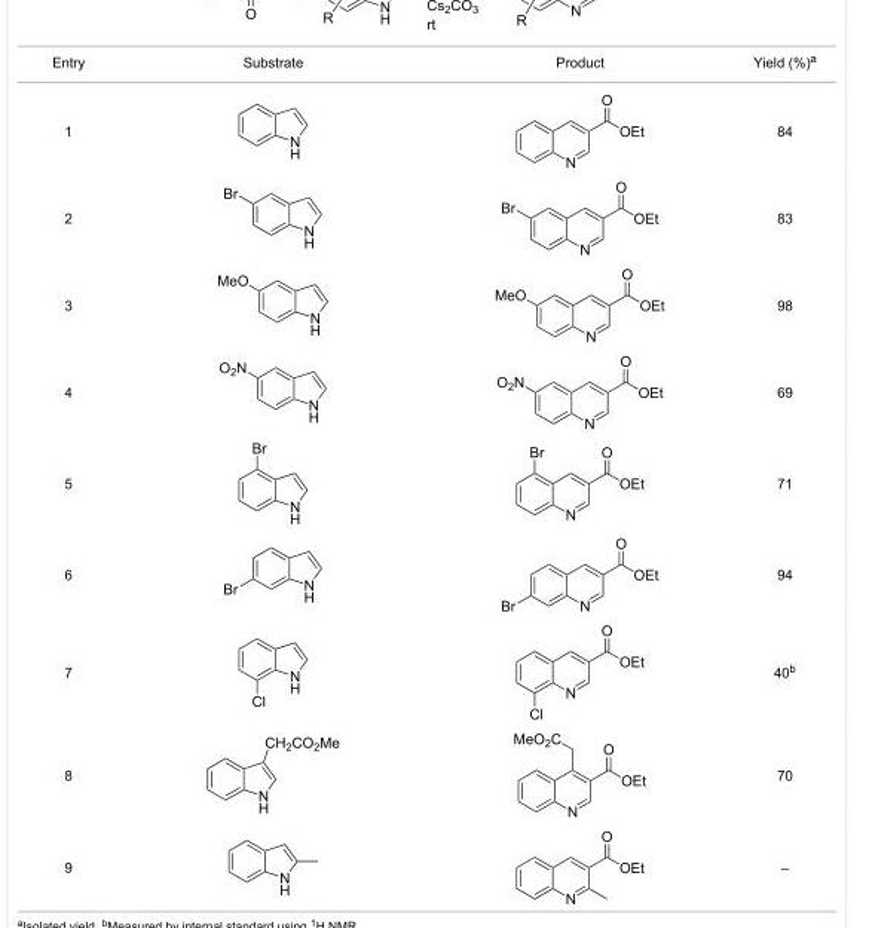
<table><tbody><tr><td>Entry</td><td>Substrate</td><td>Product</td><td>Yield (%)<sup>a</sup></td></tr><tr><td>1</td><td></td><td></td><td>84</td></tr><tr><td>2</td><td></td><td></td><td>83</td></tr><tr><td>3</td><td></td><td></td><td>98</td></tr><tr><td>4</td><td></td><td></td><td>69</td></tr><tr><td>5</td><td></td><td></td><td>71</td></tr><tr><td>6</td><td></td><td></td><td>94</td></tr><tr><td>7</td><td></td><td></td><td>40<sup>b</sup></td></tr><tr><td>8</td><td></td><td></td><td>70</td></tr><tr><td>9</td><td></td><td></td><td>–</td></tr></tbody></table>